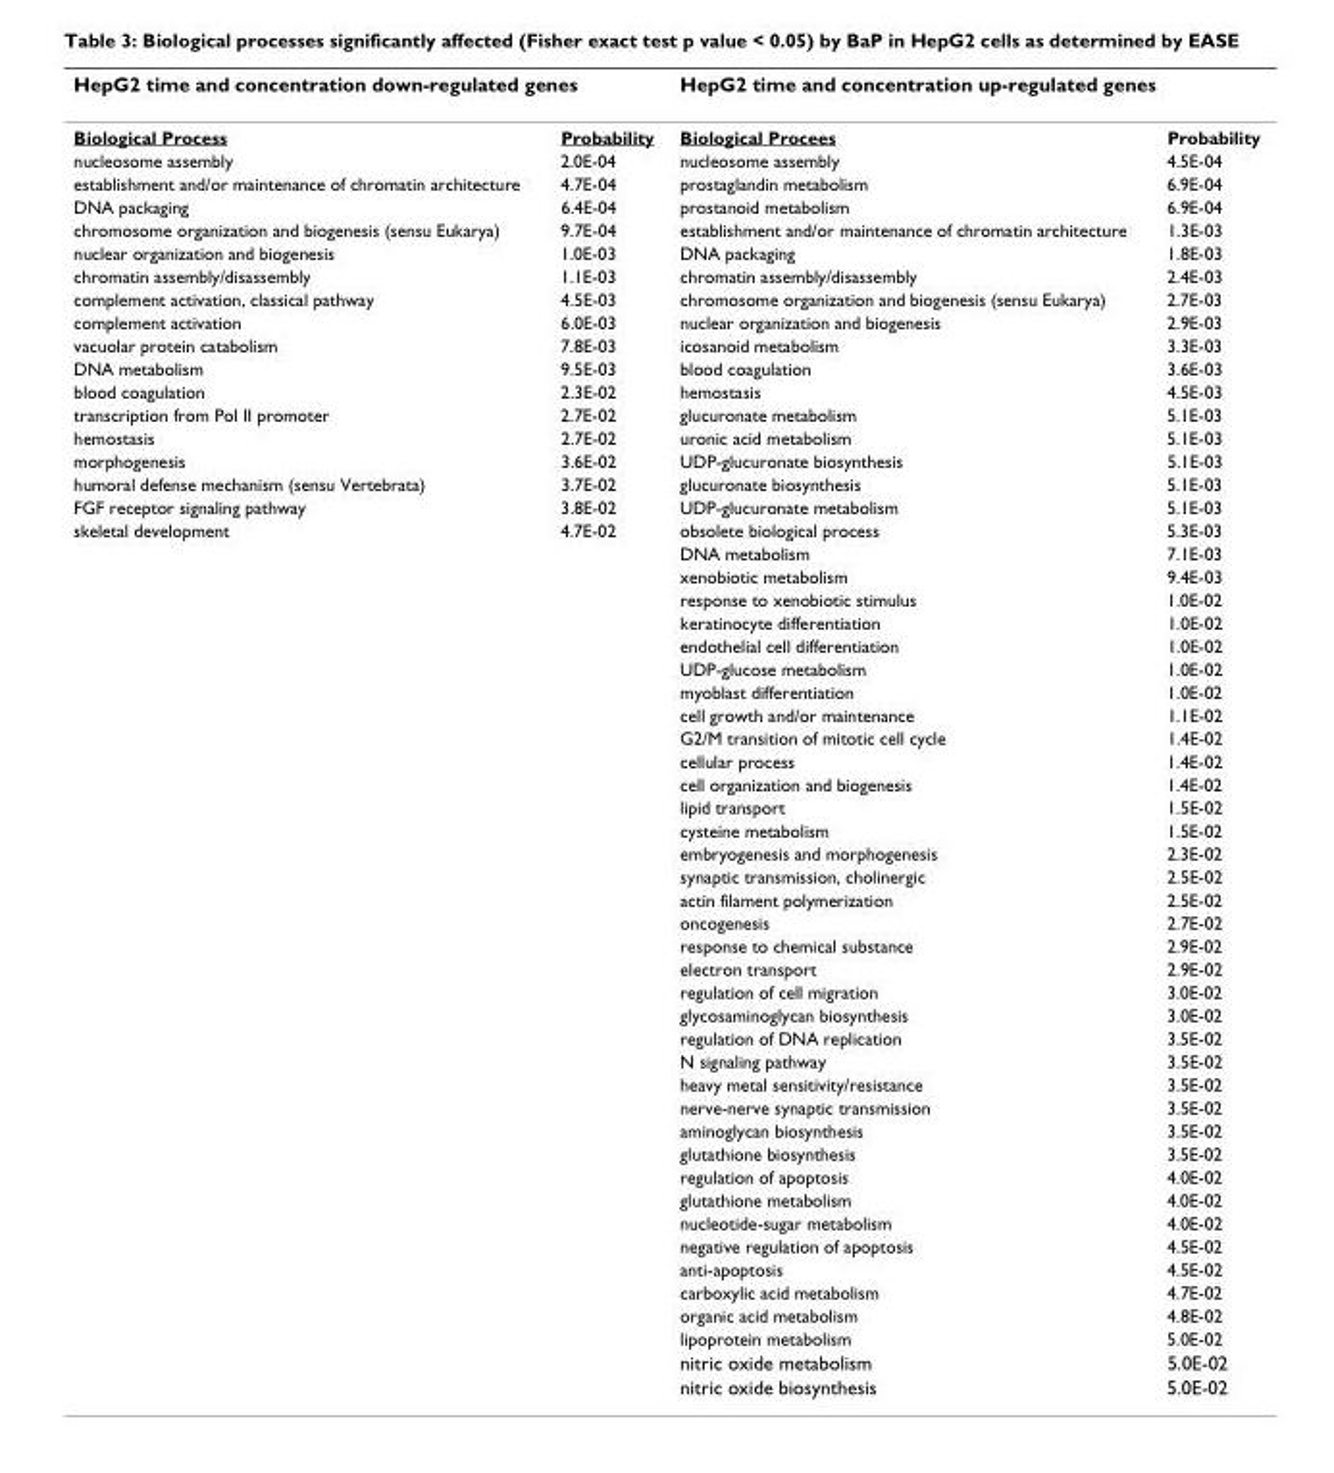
<table><thead><tr><td colspan="2">HepG2 time and concentration down-regulated genes</td><td colspan="2">HepG2 time and concentration up-regulated genes</td></tr><tr><td>Biological Process</td><td>Probability</td><td>Biological Procees</td><td>Probability</td></tr></thead><tbody><tr><td>nucleosome assembly</td><td>2.0E-04</td><td>nucleosome assembly</td><td>4.5E-04</td></tr><tr><td>establishment and/or maintenance of chromatin architecture</td><td>4.7E-04</td><td>prostaglandin metabolism</td><td>6.9E-04</td></tr><tr><td>DNA packaging</td><td>6.4E-04</td><td>prostanoid metabolism</td><td>6.9E-04</td></tr><tr><td>chromosome organization and biogenesis (sensu Eukarya)</td><td>9.7E-04</td><td>establishment and/or maintenance of chromatin architecture</td><td>1.3E-03</td></tr><tr><td>nuclear organization and biogenesis</td><td>1.0E-03</td><td>DNA packaging</td><td>1.8E-03</td></tr><tr><td>chromatin assembly/disassembly</td><td>1.1E-03</td><td>chromatin assembly/disassembly</td><td>2.4E-03</td></tr><tr><td>complement activation, classical pathway</td><td>4.5E-03</td><td>chromosome organization and biogenesis (sensu Eukarya)</td><td>2.7E-03</td></tr><tr><td>complement activation</td><td>6.0E-03</td><td>nuclear organization and biogenesis</td><td>2.9E-03</td></tr><tr><td>vacuolar protein catabolism</td><td>7.8E-03</td><td>icosanoid metabolism</td><td>3.3E-03</td></tr><tr><td>DNA metabolism</td><td>9.5E-03</td><td>blood coagulation</td><td>3.6E-03</td></tr><tr><td>blood coagulation</td><td>2.3E-02</td><td>hemostasis</td><td>4.5E-03</td></tr><tr><td>transcription from Pol II promoter</td><td>2.7E-02</td><td>glucuronate metabolism</td><td>5.1E-03</td></tr><tr><td>hemostasis</td><td>2.7E-02</td><td>uronic acid metabolism</td><td>5.1E-03</td></tr><tr><td>morphogenesis</td><td>3.6E-02</td><td>UDP-glucuronate biosynthesis</td><td>5.1E-03</td></tr><tr><td>humoral defense mechanism (sensu Vertebrata)</td><td>3.7E-02</td><td>glucuronate biosynthesis</td><td>5.1E-03</td></tr><tr><td>FGF receptor signaling pathway</td><td>3.8E-02</td><td>UDP-glucuronate metabolism</td><td>5.1E-03</td></tr><tr><td rowspan="38">skeletal development</td><td>4.7E-02</td><td>obsolete biological process</td><td>5.3E-03</td></tr><tr><td></td><td>DNA metabolism</td><td>7.1E-03</td></tr><tr><td></td><td>xenobiotic metabolism</td><td>9.4E-03</td></tr><tr><td></td><td>response to xenobiotic stimulus</td><td>1.0E-02</td></tr><tr><td></td><td>keratinocyte differentiation</td><td>1.0E-02</td></tr><tr><td></td><td>endothelial cell differentiation</td><td>1.0E-02</td></tr><tr><td></td><td>UDP-glucose metabolism</td><td>1.0E-02</td></tr><tr><td></td><td>myoblast differentiation</td><td>1.0E-02</td></tr><tr><td></td><td>cell growth and/or maintenance</td><td>1.1E-02</td></tr><tr><td></td><td>G2/M transition of mitotic cell cycle</td><td>1.4E-02</td></tr><tr><td></td><td>cellular process</td><td>1.4E-02</td></tr><tr><td></td><td>cell organization and biogenesis</td><td>1.4E-02</td></tr><tr><td></td><td>lipid transport</td><td>1.5E-02</td></tr><tr><td></td><td>cysteine metabolism</td><td>1.5E-02</td></tr><tr><td></td><td>embryogenesis and morphogenesis</td><td>2.3E-02</td></tr><tr><td></td><td>synaptic transmission, cholinergic</td><td>2.5E-02</td></tr><tr><td></td><td>actin filament polymerization</td><td>2.5E-02</td></tr><tr><td></td><td>oncogenesis</td><td>2.7E-02</td></tr><tr><td></td><td>response to chemical substance</td><td>2.9E-02</td></tr><tr><td></td><td>electron transport</td><td>2.9E-02</td></tr><tr><td></td><td>regulation of cell migration</td><td>3.0E-02</td></tr><tr><td></td><td>glycosaminoglycan biosynthesis</td><td>3.0E-02</td></tr><tr><td></td><td>regulation of DNA replication</td><td>3.5E-02</td></tr><tr><td></td><td>N signaling pathway</td><td>3.5E-02</td></tr><tr><td></td><td>heavy metal sensitivity/resistance</td><td>3.5E-02</td></tr><tr><td></td><td>nerve-nerve synaptic transmission</td><td>3.5E-02</td></tr><tr><td></td><td>aminoglycan biosynthesis</td><td>3.5E-02</td></tr><tr><td></td><td>glutathione biosynthesis</td><td>3.5E-02</td></tr><tr><td></td><td>regulation of apoptosis</td><td>4.0E-02</td></tr><tr><td></td><td>glutathione metabolism</td><td>4.0E-02</td></tr><tr><td></td><td>nucleotide-sugar metabolism</td><td>4.0E-02</td></tr><tr><td></td><td>negative regulation of apoptosis</td><td>4.5E-02</td></tr><tr><td></td><td>anti-apoptosis</td><td>4.5E-02</td></tr><tr><td></td><td>carboxylic acid metabolism</td><td>4.7E-02</td></tr><tr><td></td><td>organic acid metabolism</td><td>4.8E-02</td></tr><tr><td></td><td>lipoprotein metabolism</td><td>5.0E-02</td></tr><tr><td></td><td>nitric oxide metabolism</td><td>5.0E-02</td></tr><tr><td></td><td>nitric oxide biosynthesis</td><td>5.0E-02</td></tr></tbody></table>